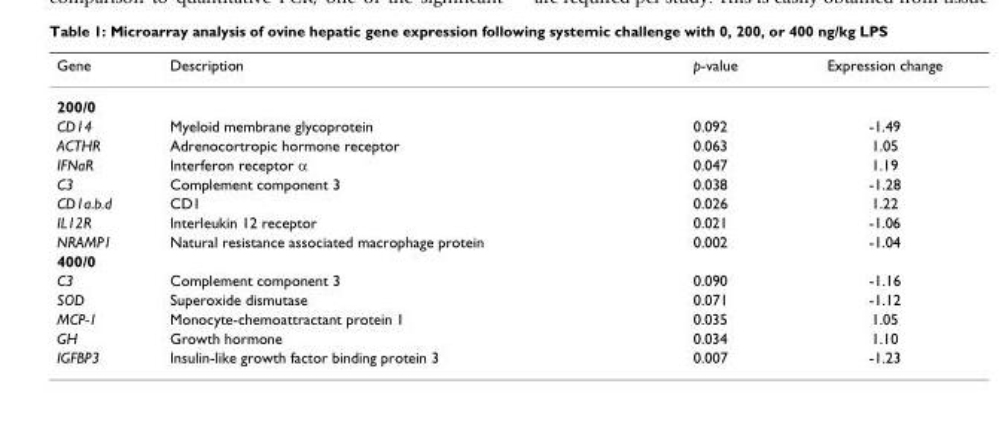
<table><thead><tr><td>Gene</td><td>Description</td><td>p-value</td><td>Expression change</td></tr></thead><tbody><tr><td colspan="4">200/0</td></tr><tr><td>CD14</td><td>Myeloid membrane glycoprotein</td><td>0.092</td><td>-1.49</td></tr><tr><td>ACTHR</td><td>Adrenocortropic hormone receptor</td><td>0.063</td><td>1.05</td></tr><tr><td>IFNaR</td><td>Interferon receptor α</td><td>0.047</td><td>1.19</td></tr><tr><td>C3</td><td>Complement component 3</td><td>0.038</td><td>-1.28</td></tr><tr><td>CD1a.b.d</td><td>CD1</td><td>0.026</td><td>1.22</td></tr><tr><td>IL12R</td><td>Interleukin 12 receptor</td><td>0.021</td><td>-1.06</td></tr><tr><td>NRAMP1</td><td>Natural resistance associated macrophage protein</td><td>0.002</td><td>-1.04</td></tr><tr><td colspan="4">400/0</td></tr><tr><td>C3</td><td>Complement component 3</td><td>0.090</td><td>-1.16</td></tr><tr><td>SOD</td><td>Superoxide dismutase</td><td>0.071</td><td>-1.12</td></tr><tr><td>MCP-1</td><td>Monocyte-chemoattractant protein 1</td><td>0.035</td><td>1.05</td></tr><tr><td>GH</td><td>Growth hormone</td><td>0.034</td><td>1.10</td></tr><tr><td>IGFBP3</td><td>Insulin-like growth factor binding protein 3</td><td>0.007</td><td>-1.23</td></tr></tbody></table>